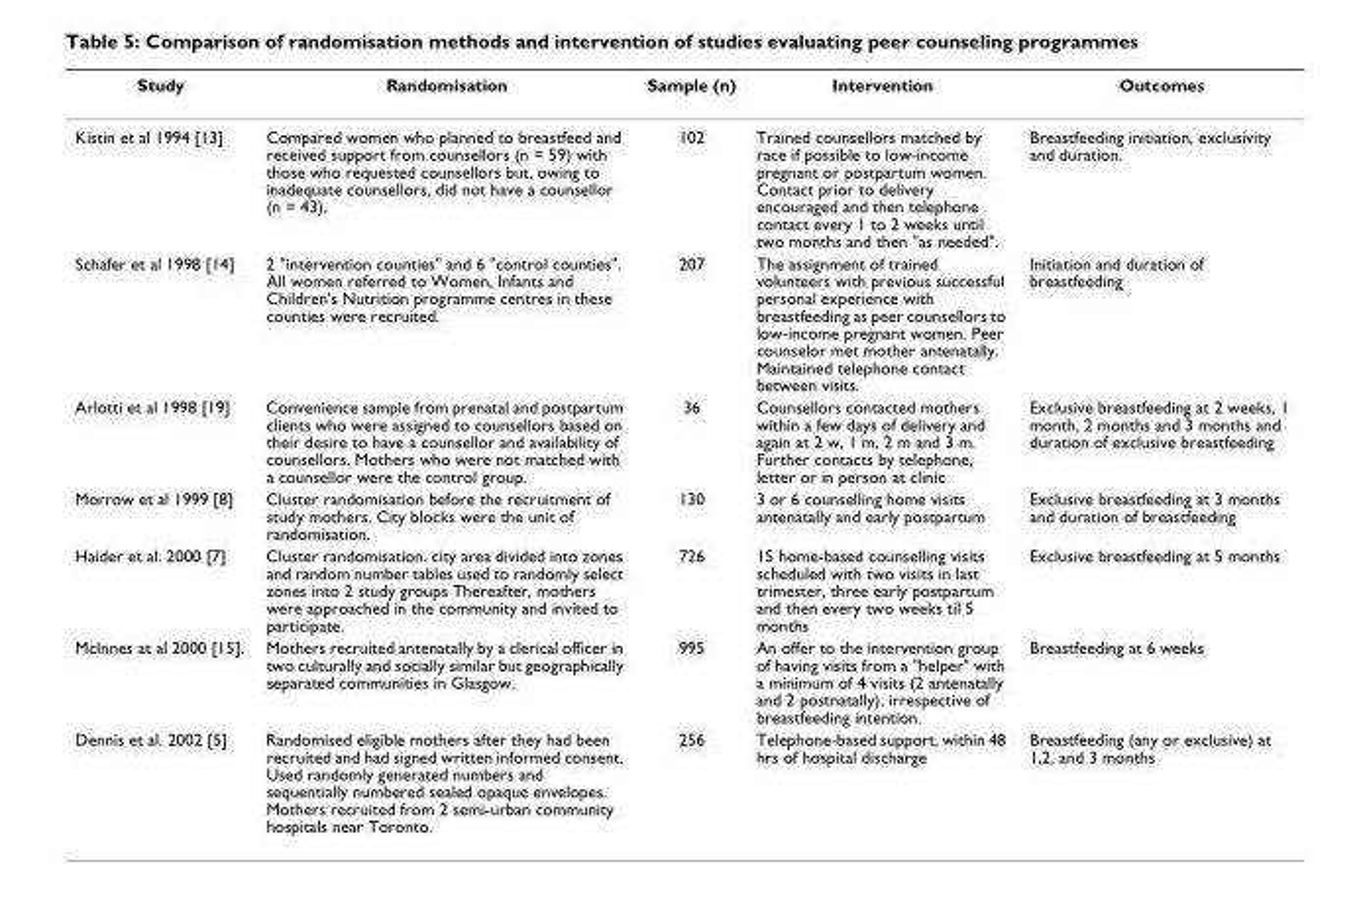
<table><thead><tr><td>Study</td><td>Randomisation</td><td>Sample (n)</td><td>Intervention</td><td>Outcomes</td></tr></thead><tbody><tr><td>Kistin et al 1994 [13]</td><td>Compared women who planned to breastfeed and received support from counsellors (n = 59) with those who requested counsellors but, owing to inadequate counsellors, did not have a counsellor (n = 43).</td><td>102</td><td>Trained counsellors matched by race if possible to low-income pregnant or postpartum women. Contact prior to delivery encouraged and then telephone contact every 1 to 2 weeks until two months and then &quot;as needed&quot;.</td><td>Breastfeeding initiation, exclusivity and duration.</td></tr><tr><td>Schafer et al 1998 [14]</td><td>2 &quot;intervention counties&quot; and 6 &quot;control counties&quot;. All women referred to Women, Infants and Children&#x27;s Nutrition programme centres in these counties were recruited.</td><td>207</td><td>The assignment of trained volunteers with previous successful personal experience with breastfeeding as peer counsellors to low-income pregnant women. Peer counselor met mother antenatally. Maintained telephone contact between visits.</td><td>Initiation and duration of breastfeeding</td></tr><tr><td>Arlotti et al 1998 [19]</td><td>Convenience sample from prenatal and postpartum clients who were assigned to counsellors based on their desire to have a counsellor and availability of counsellors. Mothers who were not matched with a counsellor were the control group.</td><td>36</td><td>Counsellors contacted mothers within a few days of delivery and again at 2 w, 1 m, 2 m and 3 m. Further contacts by telephone, letter or in person at clinic</td><td>Exclusive breastfeeding at 2 weeks, 1 month, 2 months and 3 months and duration of exclusive breastfeeding</td></tr><tr><td>Morrow et al 1999 [8]</td><td>Cluster randomisation before the recruitment of study mothers. City blocks were the unit of randomisation.</td><td>130</td><td>3 or 6 counselling home visits antenatally and early postpartum</td><td>Exclusive breastfeeding at 3 months and duration of breastfeeding</td></tr><tr><td>Haider et al. 2000 [7]</td><td>Cluster randomisation. city area divided into zones and random number tables used to randomly select zones into 2 study groups Thereafter, mothers were approached in the community and invited to participate.</td><td>726</td><td>15 home-based counselling visits scheduled with two visits in last trimester, three early postpartum and then every two weeks til 5 months</td><td>Exclusive breastfeeding at 5 months</td></tr><tr><td>McInnes at al 2000 [15].</td><td>Mothers recruited antenatally by a clerical officer in two culturally and socially similar but geographically separated communities in Glasgow.</td><td>995</td><td>An offer to the intervention group of having visits from a &quot;helper&quot; with a minimum of 4 visits (2 antenatally and 2 postnatally), irrespective of breastfeeding intention.</td><td>Breastfeeding at 6 weeks</td></tr><tr><td>Dennis et al. 2002 [5]</td><td>Randomised eligible mothers after they had been recruited and had signed written informed consent. Used randomly generated numbers and sequentially numbered sealed opaque envelopes. Mothers recruited from 2 semi-urban community hospitals near Toronto.</td><td>256</td><td>Telephone-based support, within 48 hrs of hospital discharge</td><td>Breastfeeding (any or exclusive) at 1,2, and 3 months</td></tr></tbody></table>